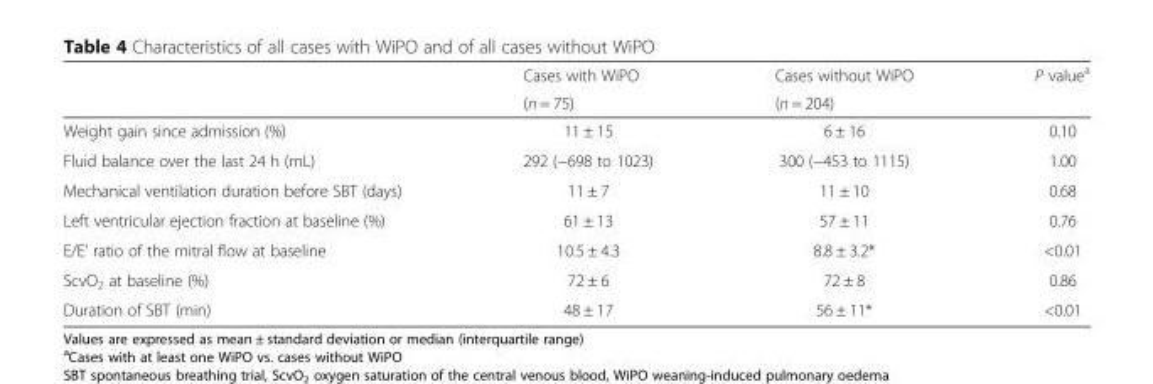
<table><thead><tr><td rowspan="2"></td><td rowspan="2">Cases with WiPO (n = 75)</td><td rowspan="2">Cases without WiPO (n = 204)</td><td rowspan="2">P value<sup>a</sup></td></tr><tr></tr></thead><tbody><tr><td>Weight gain since admission (%)</td><td>11 ± 15</td><td>6 ± 16</td><td>0.10</td></tr><tr><td>Fluid balance over the last 24 h (mL)</td><td>292 (−698 to 1023)</td><td>300 (−453 to 1115)</td><td>1.00</td></tr><tr><td>Mechanical ventilation duration before SBT (days)</td><td>11 ± 7</td><td>11 ± 10</td><td>0.68</td></tr><tr><td>Left ventricular ejection fraction at baseline (%)</td><td>61 ± 13</td><td>57 ± 11</td><td>0.76</td></tr><tr><td>E/E&#x27; ratio of the mitral flow at baseline</td><td>10.5 ± 4.3</td><td>8.8 ± 3.2*</td><td>&lt;0.01</td></tr><tr><td>ScvO<sub>2</sub> at baseline (%)</td><td>72 ± 6</td><td>72 ± 8</td><td>0.86</td></tr><tr><td>Duration of SBT (min)</td><td>48 ± 17</td><td>56 ± 11*</td><td>&lt;0.01</td></tr></tbody></table>